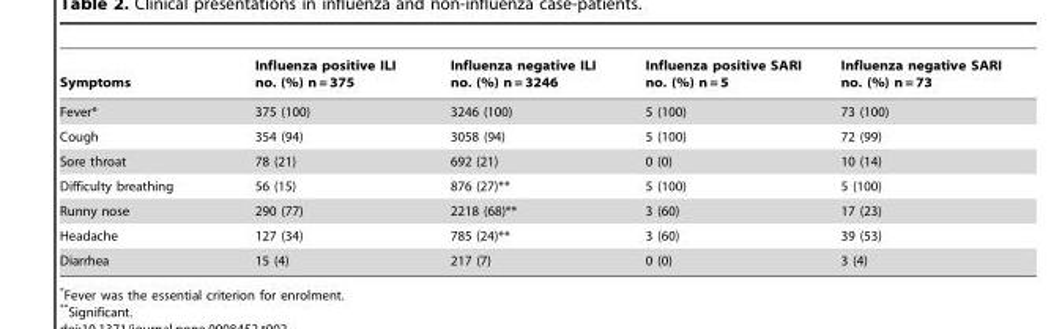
<table><thead><tr><td>Symptoms</td><td>Influenza positive ILI no. (%) n = 375</td><td>Influenza negative ILI no. (%) n = 3246</td><td>Influenza positive SARI no. (%) n = 5</td><td>Influenza negative SARI no. (%) n = 73</td></tr></thead><tbody><tr><td>Fever*</td><td>375 (100)</td><td>3246 (100)</td><td>5 (100)</td><td>73 (100)</td></tr><tr><td>Cough</td><td>354 (94)</td><td>3058 (94)</td><td>5 (100)</td><td>72 (99)</td></tr><tr><td>Sore throat</td><td>78 (21)</td><td>692 (21)</td><td>0 (0)</td><td>10 (14)</td></tr><tr><td>Difficulty breathing</td><td>56 (15)</td><td>876 (27)**</td><td>5 (100)</td><td>5 (100)</td></tr><tr><td>Runny nose</td><td>290 (77)</td><td>2218 (68)**</td><td>3 (60)</td><td>17 (23)</td></tr><tr><td>Headache</td><td>127 (34)</td><td>785 (24)**</td><td>3 (60)</td><td>39 (53)</td></tr><tr><td>Diarrhea</td><td>15 (4)</td><td>217 (7)</td><td>0 (0)</td><td>3 (4)</td></tr></tbody></table>